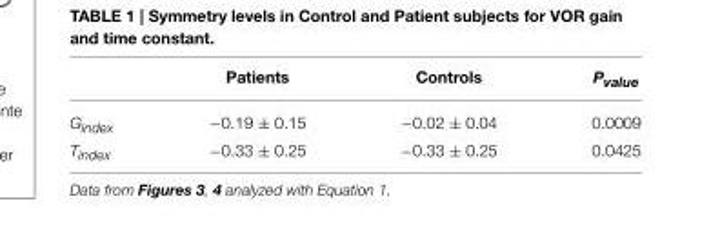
<table><thead><tr><td></td><td>Patients</td><td>Controls</td><td>P<sub>value</sub></td></tr></thead><tbody><tr><td>G<sub>index</sub></td><td>−0.19 ± 0.15</td><td>−0.02 ± 0.04</td><td>0.0009</td></tr><tr><td>T<sub>index</sub></td><td>−0.33 ± 0.25</td><td>−0.33 ± 0.25</td><td>0.0425</td></tr></tbody></table>